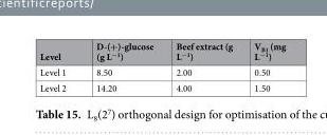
<table><thead><tr><td>Level</td><td>D-(+)-glucose (g L<sup>−1</sup>)</td><td>Beef extract (g L<sup>−1</sup>)</td><td>V<sub>B1</sub> (mg L<sup>−1</sup>)</td></tr></thead><tbody><tr><td>Level 1</td><td>8.50</td><td>2.00</td><td>0.50</td></tr><tr><td>Level 2</td><td>14.20</td><td>4.00</td><td>1.50</td></tr></tbody></table>